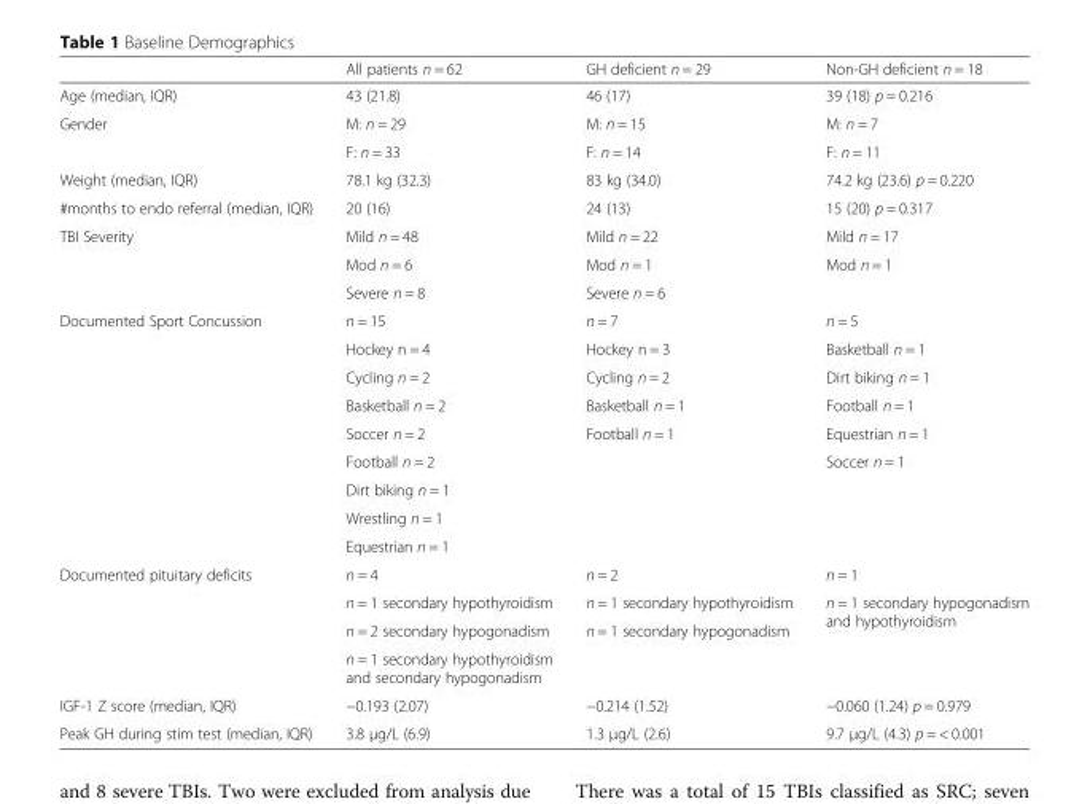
<table><thead><tr><td></td><td>All patients n = 62</td><td>GH deficient n = 29</td><td>Non-GH deficient n = 18</td></tr></thead><tbody><tr><td>Age (median, IQR)</td><td>43 (21.8)</td><td>46 (17)</td><td>39 (18) p = 0.216</td></tr><tr><td rowspan="2">Gender</td><td>M: n = 29</td><td>M: n = 15</td><td>M: n = 7</td></tr><tr><td>F: n = 33</td><td>F: n = 14</td><td>F: n = 11</td></tr><tr><td>Weight (median, IQR)</td><td>78.1 kg (32.3)</td><td>83 kg (34.0)</td><td>74.2 kg (23.6) p = 0.220</td></tr><tr><td>#months to endo referral (median, IQR)</td><td>20 (16)</td><td>24 (13)</td><td>15 (20) p = 0.317</td></tr><tr><td rowspan="3">TBI Severity</td><td>Mild n = 48</td><td>Mild n = 22</td><td>Mild n = 17</td></tr><tr><td>Mod n = 6</td><td>Mod n = 1</td><td rowspan="2">Mod n = 1</td></tr><tr><td>Severe n = 8</td><td>Severe n = 6</td></tr><tr><td rowspan="9">Documented Sport Concussion</td><td>n = 15</td><td>n = 7</td><td>n = 5</td></tr><tr><td>Hockey n = 4</td><td>Hockey n = 3</td><td>Basketball n = 1</td></tr><tr><td>Cycling n = 2</td><td>Cycling n = 2</td><td>Dirt biking n = 1</td></tr><tr><td>Basketball n = 2</td><td>Basketball n = 1</td><td>Football n = 1</td></tr><tr><td>Soccer n = 2</td><td>Football n = 1</td><td>Equestrian n = 1</td></tr><tr><td>Football n = 2</td><td></td><td>Soccer n = 1</td></tr><tr><td>Dirt biking n = 1</td><td rowspan="3"></td><td rowspan="3"></td></tr><tr><td>Wrestling n = 1</td></tr><tr><td>Equestrian n = 1</td></tr><tr><td rowspan="4">Documented pituitary deficits</td><td>n = 4</td><td>n = 2</td><td>n = 1</td></tr><tr><td>n = 1 secondary hypothyroidism</td><td>n = 1 secondary hypothyroidism</td><td rowspan="3">n = 1 secondary hypogonadism and hypothyroidism</td></tr><tr><td>n = 2 secondary hypogonadism</td><td>n = 1 secondary hypogonadism</td></tr><tr><td>n = 1 secondary hypothyroidism and secondary hypogonadism</td><td></td></tr><tr><td>IGF-1 Z score (median, IQR)</td><td>−0.193 (2.07)</td><td>−0.214 (1.52)</td><td>−0.060 (1.24) p = 0.979</td></tr><tr><td>Peak GH during stim test (median, IQR)</td><td>3.8 μg/L (6.9)</td><td>1.3 μg/L (2.6)</td><td>9.7 μg/L (4.3) p = &lt; 0.001</td></tr></tbody></table>